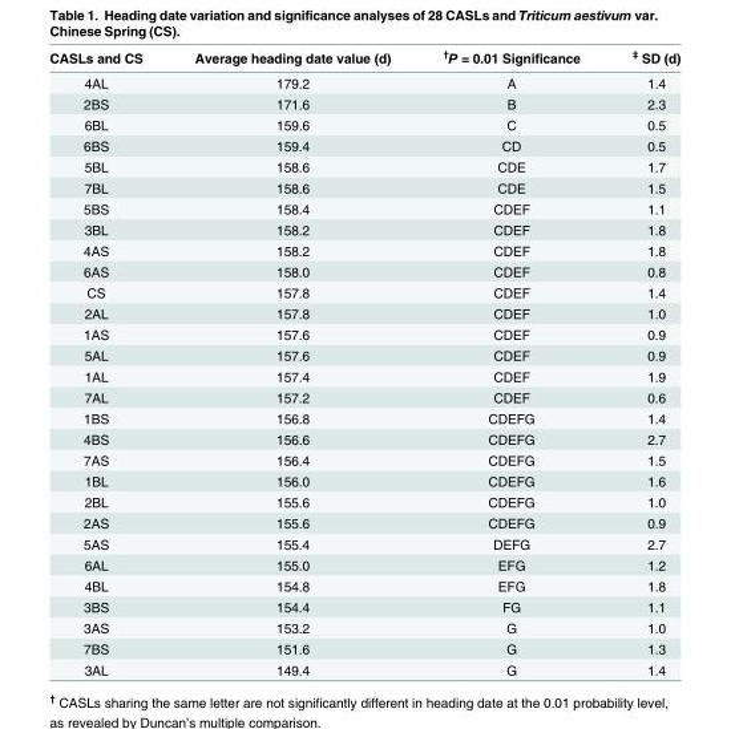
<table><thead><tr><td>CASLs and CS</td><td>Average heading date value (d)</td><td><sup>†</sup>P = 0.01 Significance</td><td><sup>‡</sup> SD (d)</td></tr></thead><tbody><tr><td>4AL</td><td>179.2</td><td>A</td><td>1.4</td></tr><tr><td>2BS</td><td>171.6</td><td>B</td><td>2.3</td></tr><tr><td>6BL</td><td>159.6</td><td>C</td><td>0.5</td></tr><tr><td>6BS</td><td>159.4</td><td>CD</td><td>0.5</td></tr><tr><td>5BL</td><td>158.6</td><td>CDE</td><td>1.7</td></tr><tr><td>7BL</td><td>158.6</td><td>CDE</td><td>1.5</td></tr><tr><td>5BS</td><td>158.4</td><td>CDEF</td><td>1.1</td></tr><tr><td>3BL</td><td>158.2</td><td>CDEF</td><td>1.8</td></tr><tr><td>4AS</td><td>158.2</td><td>CDEF</td><td>1.8</td></tr><tr><td>6AS</td><td>158.0</td><td>CDEF</td><td>0.8</td></tr><tr><td>CS</td><td>157.8</td><td>CDEF</td><td>1.4</td></tr><tr><td>2AL</td><td>157.8</td><td>CDEF</td><td>1.0</td></tr><tr><td>1AS</td><td>157.6</td><td>CDEF</td><td>0.9</td></tr><tr><td>5AL</td><td>157.6</td><td>CDEF</td><td>0.9</td></tr><tr><td>1AL</td><td>157.4</td><td>CDEF</td><td>1.9</td></tr><tr><td>7AL</td><td>157.2</td><td>CDEF</td><td>0.6</td></tr><tr><td>1BS</td><td>156.8</td><td>CDEFG</td><td>1.4</td></tr><tr><td>4BS</td><td>156.6</td><td>CDEFG</td><td>2.7</td></tr><tr><td>7AS</td><td>156.4</td><td>CDEFG</td><td>1.5</td></tr><tr><td>1BL</td><td>156.0</td><td>CDEFG</td><td>1.6</td></tr><tr><td>2BL</td><td>155.6</td><td>CDEFG</td><td>1.0</td></tr><tr><td>2AS</td><td>155.6</td><td>CDEFG</td><td>0.9</td></tr><tr><td>5AS</td><td>155.4</td><td>DEFG</td><td>2.7</td></tr><tr><td>6AL</td><td>155.0</td><td>EFG</td><td>1.2</td></tr><tr><td>4BL</td><td>154.8</td><td>EFG</td><td>1.8</td></tr><tr><td>3BS</td><td>154.4</td><td>FG</td><td>1.1</td></tr><tr><td>3AS</td><td>153.2</td><td>G</td><td>1.0</td></tr><tr><td>7BS</td><td>151.6</td><td>G</td><td>1.3</td></tr><tr><td>3AL</td><td>149.4</td><td>G</td><td>1.4</td></tr></tbody></table>